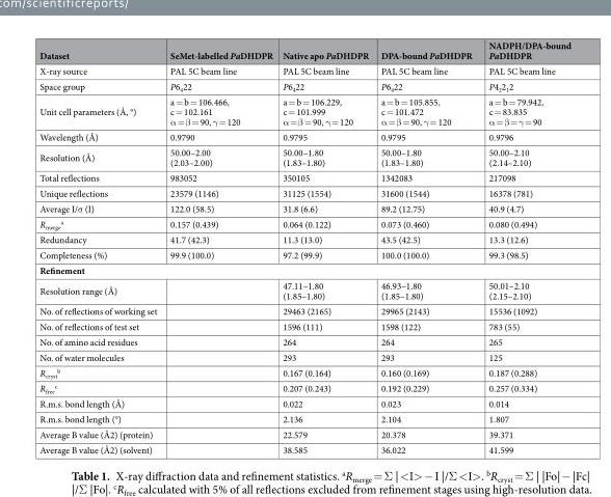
<table><thead><tr><td>Dataset</td><td>SeMet-labelled PaDHDPR</td><td>Native apo PaDHDPR</td><td>DPA-bound PaDHDPR</td><td>NADPH/DPA-bound PaDHDPR</td></tr></thead><tbody><tr><td>X-ray source</td><td>PAL 5C beam line</td><td>PAL 5C beam line</td><td>PAL 5C beam line</td><td>PAL 5C beam line</td></tr><tr><td>Space group</td><td>P6<sub>4</sub>22</td><td>P6<sub>4</sub>22</td><td>P6<sub>4</sub>22</td><td>P4<sub>2</sub>2<sub>1</sub>2</td></tr><tr><td>Unit cell parameters (Å, °)</td><td>a = b = 106.466, c = 102.161 α = β = 90, γ = 120</td><td>a = b = 106.229, c = 101.999 α = β = 90, γ = 120</td><td>a = b = 105.855, c = 101.472 α = β = 90, γ = 120</td><td>a = b = 79.942, c = 83.835 α = β = γ = 90</td></tr><tr><td>Wavelength (Å)</td><td>0.9790</td><td>0.9795</td><td>0.9795</td><td>0.9796</td></tr><tr><td>Resolution (Å)</td><td>50.00–2.00 (2.03–2.00)</td><td>50.00–1.80 (1.83–1.80)</td><td>50.00–1.80 (1.83–1.80)</td><td>50.00–2.10 (2.14–2.10)</td></tr><tr><td>Total reflections</td><td>983052</td><td>350105</td><td>1342083</td><td>217098</td></tr><tr><td>Unique reflections</td><td>23579 (1146)</td><td>31125 (1554)</td><td>31600 (1544)</td><td>16378 (781)</td></tr><tr><td>Average I/σ (I)</td><td>122.0 (58.5)</td><td>31.8 (6.6)</td><td>89.2 (12.75)</td><td>40.9 (4.7)</td></tr><tr><td>R<sub>merge</sub> <sup>a</sup></td><td>0.157 (0.439)</td><td>0.064 (0.122)</td><td>0.073 (0.460)</td><td>0.080 (0.494)</td></tr><tr><td>Redundancy</td><td>41.7 (42.3)</td><td>11.3 (13.0)</td><td>43.5 (42.5)</td><td>13.3 (12.6)</td></tr><tr><td>Completeness (%)</td><td>99.9 (100.0)</td><td>97.2 (99.9)</td><td>100.0 (100.0)</td><td>99.3 (98.5)</td></tr><tr><td colspan="5">Refinement</td></tr><tr><td>Resolution range (Å)</td><td></td><td>47.11–1.80 (1.85–1.80)</td><td>46.93–1.80 (1.85–1.80)</td><td>50.01–2.10 (2.15–2.10)</td></tr><tr><td>No. of reflections of working set</td><td></td><td>29463 (2165)</td><td>29965 (2143)</td><td>15536 (1092)</td></tr><tr><td>No. of reflections of test set</td><td></td><td>1596 (111)</td><td>1598 (122)</td><td>783 (55)</td></tr><tr><td>No. of amino acid residues</td><td></td><td>264</td><td>264</td><td>265</td></tr><tr><td>No. of water molecules</td><td></td><td>293</td><td>293</td><td>125</td></tr><tr><td>R<sub>cryst</sub> <sup>b</sup></td><td></td><td>0.167 (0.164)</td><td>0.160 (0.169)</td><td>0.187 (0.288)</td></tr><tr><td>R<sub>free</sub> <sup>c</sup></td><td></td><td>0.207 (0.243)</td><td>0.192 (0.229)</td><td>0.257 (0.334)</td></tr><tr><td>R.m.s. bond length (Å)</td><td></td><td>0.022</td><td>0.023</td><td>0.014</td></tr><tr><td>R.m.s. bond length (°)</td><td></td><td>2.136</td><td>2.104</td><td>1.807</td></tr><tr><td>Average B value (Å2) (protein)</td><td></td><td>22.579</td><td>20.378</td><td>39.371</td></tr><tr><td>Average B value (Å2) (solvent)</td><td></td><td>38.585</td><td>36.022</td><td>41.599</td></tr></tbody></table>